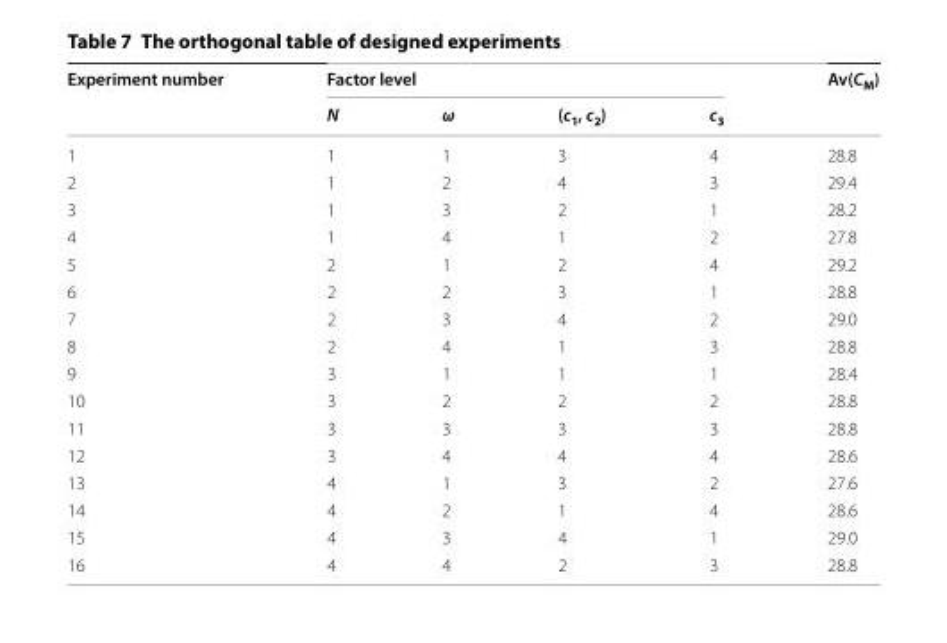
<table><thead><tr><td rowspan="2">Experiment number</td><td colspan="4">Factor level</td><td rowspan="2">Av(C<sub>M</sub>)</td></tr><tr><td>N</td><td>ω</td><td>(c<sub>1</sub>, c<sub>2</sub>)</td><td>c<sub>3</sub></td></tr></thead><tbody><tr><td>1</td><td>1</td><td>1</td><td>3</td><td>4</td><td>28.8</td></tr><tr><td>2</td><td>1</td><td>2</td><td>4</td><td>3</td><td>29.4</td></tr><tr><td>3</td><td>1</td><td>3</td><td>2</td><td>1</td><td>28.2</td></tr><tr><td>4</td><td>1</td><td>4</td><td>1</td><td>2</td><td>27.8</td></tr><tr><td>5</td><td>2</td><td>1</td><td>2</td><td>4</td><td>29.2</td></tr><tr><td>6</td><td>2</td><td>2</td><td>3</td><td>1</td><td>28.8</td></tr><tr><td>7</td><td>2</td><td>3</td><td>4</td><td>2</td><td>29.0</td></tr><tr><td>8</td><td>2</td><td>4</td><td>1</td><td>3</td><td>28.8</td></tr><tr><td>9</td><td>3</td><td>1</td><td>1</td><td>1</td><td>28.4</td></tr><tr><td>10</td><td>3</td><td>2</td><td>2</td><td>2</td><td>28.8</td></tr><tr><td>11</td><td>3</td><td>3</td><td>3</td><td>3</td><td>28.8</td></tr><tr><td>12</td><td>3</td><td>4</td><td>4</td><td>4</td><td>28.6</td></tr><tr><td>13</td><td>4</td><td>1</td><td>3</td><td>2</td><td>27.6</td></tr><tr><td>14</td><td>4</td><td>2</td><td>1</td><td>4</td><td>28.6</td></tr><tr><td>15</td><td>4</td><td>3</td><td>4</td><td>1</td><td>29.0</td></tr><tr><td>16</td><td>4</td><td>4</td><td>2</td><td>3</td><td>28.8</td></tr></tbody></table>